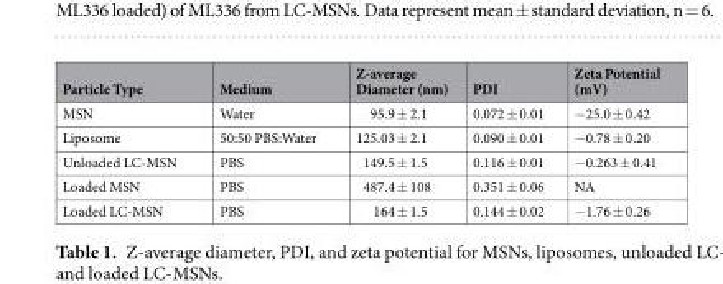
<table><thead><tr><td>Particle Type</td><td>Medium</td><td>Z-average Diameter (nm)</td><td>PDI</td><td>Zeta Potential (mV)</td></tr></thead><tbody><tr><td>MSN</td><td>Water</td><td>95.9 ± 2.1</td><td>0.072 ± 0.01</td><td>−25.0 ± 0.42</td></tr><tr><td>Liposome</td><td>50:50 PBS:Water</td><td>125.03 ± 2.1</td><td>0.090 ± 0.01</td><td>−0.78 ± 0.20</td></tr><tr><td>Unloaded LC-MSN</td><td>PBS</td><td>149.5 ± 1.5</td><td>0.116 ± 0.01</td><td>−0.263 ± 0.41</td></tr><tr><td>Loaded MSN</td><td>PBS</td><td>487.4 ± 108</td><td>0.351 ± 0.06</td><td>NA</td></tr><tr><td>Loaded LC-MSN</td><td>PBS</td><td>164 ± 1.5</td><td>0.144 ± 0.02</td><td>−1.76 ± 0.26</td></tr></tbody></table>